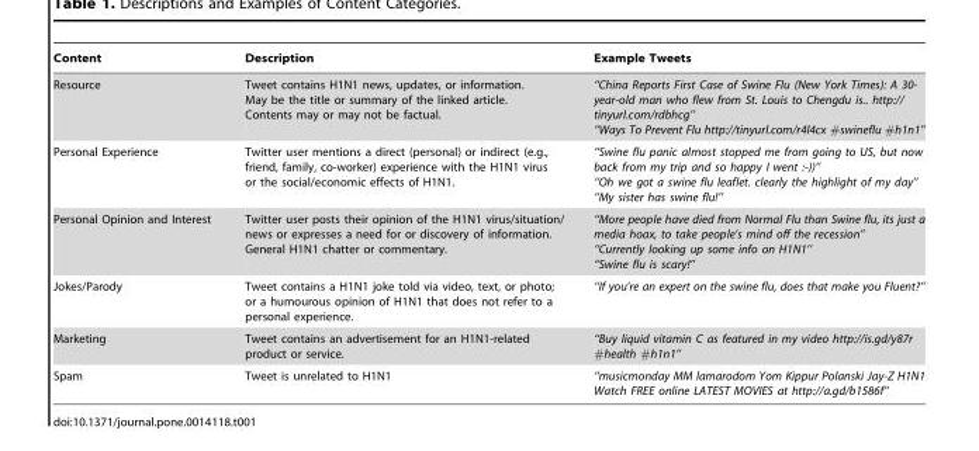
<table><thead><tr><td>Content</td><td>Description</td><td>Example Tweets</td></tr></thead><tbody><tr><td>Resource</td><td>Tweet contains H1N1 news, updates, or information. May be the title or summary of the linked article. Contents may or may not be factual.</td><td>‘‘China Reports First Case of Swine Flu (New York Times): A 30- year-old man who flew from St. Louis to Chengdu is.. http:// tinyurl.com/rdbhcg’’ ‘‘Ways To Prevent Flu http://tinyurl.com/r4l4cx #swineflu #h1n1’’</td></tr><tr><td>Personal Experience</td><td>Twitter user mentions a direct (personal) or indirect (e.g., friend, family, co-worker) experience with the H1N1 virus or the social/economic effects of H1N1.</td><td>‘‘Swine flu panic almost stopped me from going to US, but now back from my trip and so happy I went :-))’’ ‘‘Oh we got a swine flu leaflet. clearly the highlight of my day’’ ‘‘My sister has swine flu!’’</td></tr><tr><td>Personal Opinion and Interest</td><td>Twitter user posts their opinion of the H1N1 virus/situation/ news or expresses a need for or discovery of information. General H1N1 chatter or commentary.</td><td>‘‘More people have died from Normal Flu than Swine flu, its just a media hoax, to take people’s mind off the recession’’ ‘‘Currently looking up some info on H1N1’’ ‘‘Swine flu is scary!’’</td></tr><tr><td>Jokes/Parody</td><td>Tweet contains a H1N1 joke told via video, text, or photo; or a humourous opinion of H1N1 that does not refer to a personal experience.</td><td>‘‘If you’re an expert on the swine flu, does that make you Fluent?’’</td></tr><tr><td>Marketing</td><td>Tweet contains an advertisement for an H1N1-related product or service.</td><td>‘‘Buy liquid vitamin C as featured in my video http://is.gd/y87r #health #h1n1’’</td></tr><tr><td>Spam</td><td>Tweet is unrelated to H1N1</td><td>‘‘musicmonday MM lamarodom Yom Kippur Polanski Jay-Z H1N1 Watch FREE online LATEST MOVIES at http://a.gd/b1586f’’</td></tr></tbody></table>